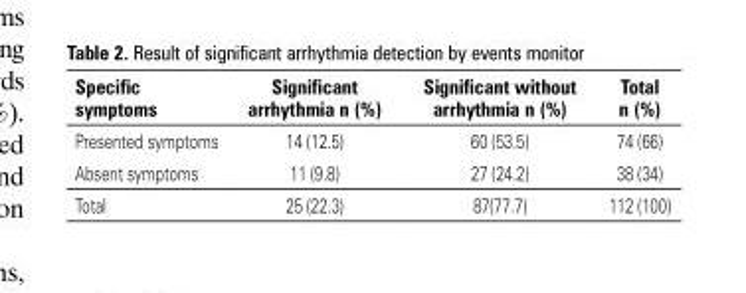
<table><thead><tr><td>Specific symptoms</td><td>Significant arrhythmia n (%)</td><td>Significant without arrhythmia n (%)</td><td>Total n (%)</td></tr></thead><tbody><tr><td>Presented symptoms</td><td>14 (12.5)</td><td>60 (53.5)</td><td>74 (66)</td></tr><tr><td>Absent symptoms</td><td>11 (9.8)</td><td>27 (24.2)</td><td>38 (34)</td></tr><tr><td>Total</td><td>25 (22.3)</td><td>87(77.7)</td><td>112 (100)</td></tr></tbody></table>